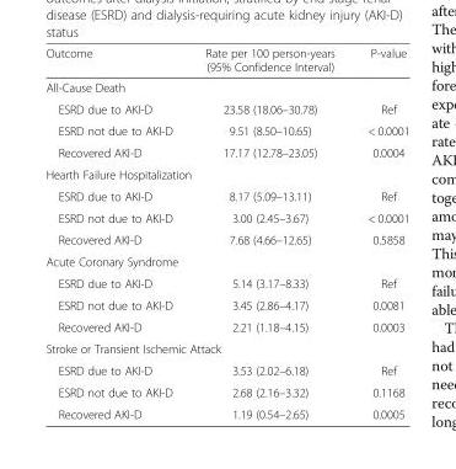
<table><thead><tr><td>Outcome</td><td>Rate per 100 person-years (95% Confidence Interval)</td><td>P-value</td></tr></thead><tbody><tr><td colspan="3">All-Cause Death</td></tr><tr><td>ESRD due to AKI-D</td><td>23.58 (18.06–30.78)</td><td>Ref</td></tr><tr><td>ESRD not due to AKI-D</td><td>9.51 (8.50–10.65)</td><td>&lt; 0.0001</td></tr><tr><td>Recovered AKI-D</td><td>17.17 (12.78–23.05)</td><td>0.0004</td></tr><tr><td colspan="3">Hearth Failure Hospitalization</td></tr><tr><td>ESRD due to AKI-D</td><td>8.17 (5.09–13.11)</td><td>Ref</td></tr><tr><td>ESRD not due to AKI-D</td><td>3.00 (2.45–3.67)</td><td>&lt; 0.0001</td></tr><tr><td>Recovered AKI-D</td><td>7.68 (4.66–12.65)</td><td>0.5858</td></tr><tr><td colspan="3">Acute Coronary Syndrome</td></tr><tr><td>ESRD due to AKI-D</td><td>5.14 (3.17–8.33)</td><td>Ref</td></tr><tr><td>ESRD not due to AKI-D</td><td>3.45 (2.86–4.17)</td><td>0.0081</td></tr><tr><td>Recovered AKI-D</td><td>2.21 (1.18–4.15)</td><td>0.0003</td></tr><tr><td colspan="3">Stroke or Transient Ischemic Attack</td></tr><tr><td>ESRD due to AKI-D</td><td>3.53 (2.02–6.18)</td><td>Ref</td></tr><tr><td>ESRD not due to AKI-D</td><td>2.68 (2.16–3.32)</td><td>0.1168</td></tr><tr><td>Recovered AKI-D</td><td>1.19 (0.54–2.65)</td><td>0.0005</td></tr></tbody></table>